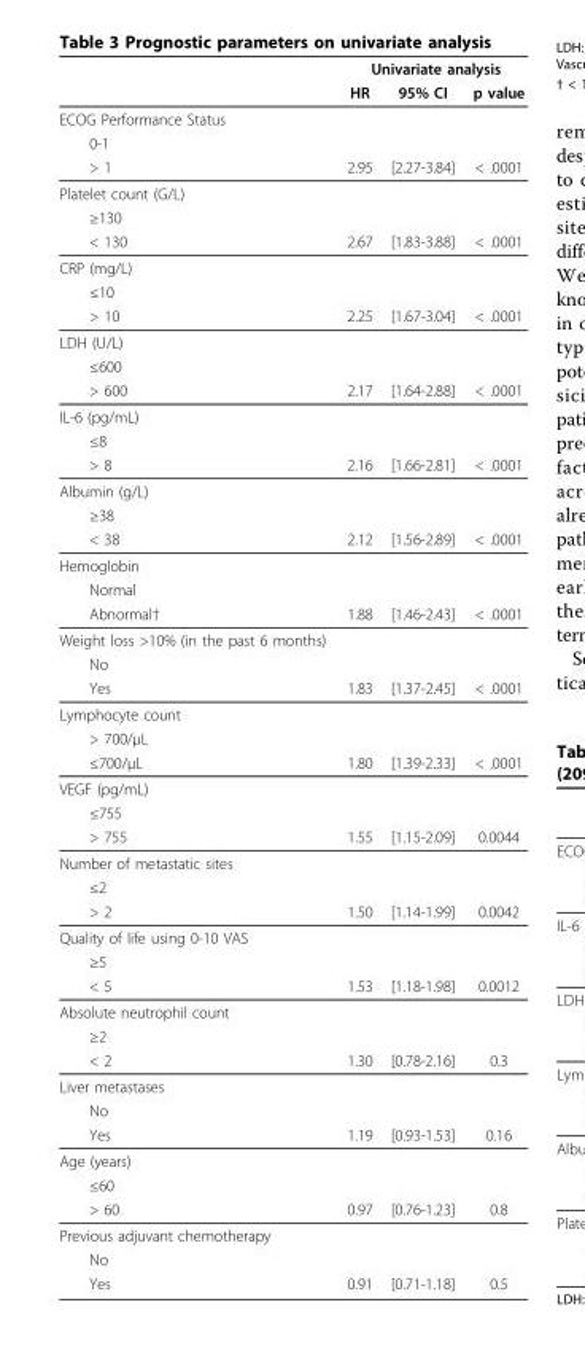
<table><thead><tr><td rowspan="2"></td><td colspan="3">Univariate analysis</td></tr><tr><td>HR</td><td>95% CI</td><td>p value</td></tr></thead><tbody><tr><td colspan="4">ECOG Performance Status</td></tr><tr><td colspan="4">0-1</td></tr><tr><td>&gt; 1</td><td>2.95</td><td>[2.27-3.84]</td><td>&lt; .0001</td></tr><tr><td colspan="4">Platelet count (G/L)</td></tr><tr><td colspan="4">≥130</td></tr><tr><td>&lt; 130</td><td>2.67</td><td>[1.83-3.88]</td><td>&lt; .0001</td></tr><tr><td colspan="4">CRP (mg/L)</td></tr><tr><td colspan="4">≤10</td></tr><tr><td>&gt; 10</td><td>2.25</td><td>[1.67-3.04]</td><td>&lt; .0001</td></tr><tr><td colspan="4">LDH (U/L)</td></tr><tr><td colspan="4">≤600</td></tr><tr><td>&gt; 600</td><td>2.17</td><td>[1.64-2.88]</td><td>&lt; .0001</td></tr><tr><td colspan="4">IL-6 (pg/mL)</td></tr><tr><td colspan="4">≤8</td></tr><tr><td>&gt; 8</td><td>2.16</td><td>[1.66-2.81]</td><td>&lt; .0001</td></tr><tr><td colspan="4">Albumin (g/L)</td></tr><tr><td colspan="4">≥38</td></tr><tr><td>&lt; 38</td><td>2.12</td><td>[1.56-2.89]</td><td>&lt; .0001</td></tr><tr><td colspan="4">Hemoglobin</td></tr><tr><td colspan="4">Normal</td></tr><tr><td>Abnormal†</td><td>1.88</td><td>[1.46-2.43]</td><td>&lt; .0001</td></tr><tr><td colspan="4">Weight loss &gt;10% (in the past 6 months)</td></tr><tr><td colspan="4">No</td></tr><tr><td>Yes</td><td>1.83</td><td>[1.37-2.45]</td><td>&lt; .0001</td></tr><tr><td colspan="4">Lymphocyte count</td></tr><tr><td colspan="4">&gt; 700/μL</td></tr><tr><td>≤700/μL</td><td>1.80</td><td>[1.39-2.33]</td><td>&lt; .0001</td></tr><tr><td colspan="4">VEGF (pg/mL)</td></tr><tr><td colspan="4">≤755</td></tr><tr><td>&gt; 755</td><td>1.55</td><td>[1.15-2.09]</td><td>0.0044</td></tr><tr><td colspan="4">Number of metastatic sites</td></tr><tr><td colspan="4">≤2</td></tr><tr><td>&gt; 2</td><td>1.50</td><td>[1.14-1.99]</td><td>0.0042</td></tr><tr><td colspan="4">Quality of life using 0-10 VAS</td></tr><tr><td colspan="4">≥5</td></tr><tr><td>&lt; 5</td><td>1.53</td><td>[1.18-1.98]</td><td>0.0012</td></tr><tr><td colspan="4">Absolute neutrophil count</td></tr><tr><td colspan="4">≥2</td></tr><tr><td>&lt; 2</td><td>1.30</td><td>[0.78-2.16]</td><td>0.3</td></tr><tr><td colspan="4">Liver metastases</td></tr><tr><td colspan="4">No</td></tr><tr><td>Yes</td><td>1.19</td><td>[0.93-1.53]</td><td>0.16</td></tr><tr><td colspan="4">Age (years)</td></tr><tr><td colspan="4">≤60</td></tr><tr><td>&gt; 60</td><td>0.97</td><td>[0.76-1.23]</td><td>0.8</td></tr><tr><td colspan="4">Previous adjuvant chemotherapy</td></tr><tr><td colspan="4">No</td></tr><tr><td>Yes</td><td>0.91</td><td>[0.71-1.18]</td><td>0.5</td></tr></tbody></table>